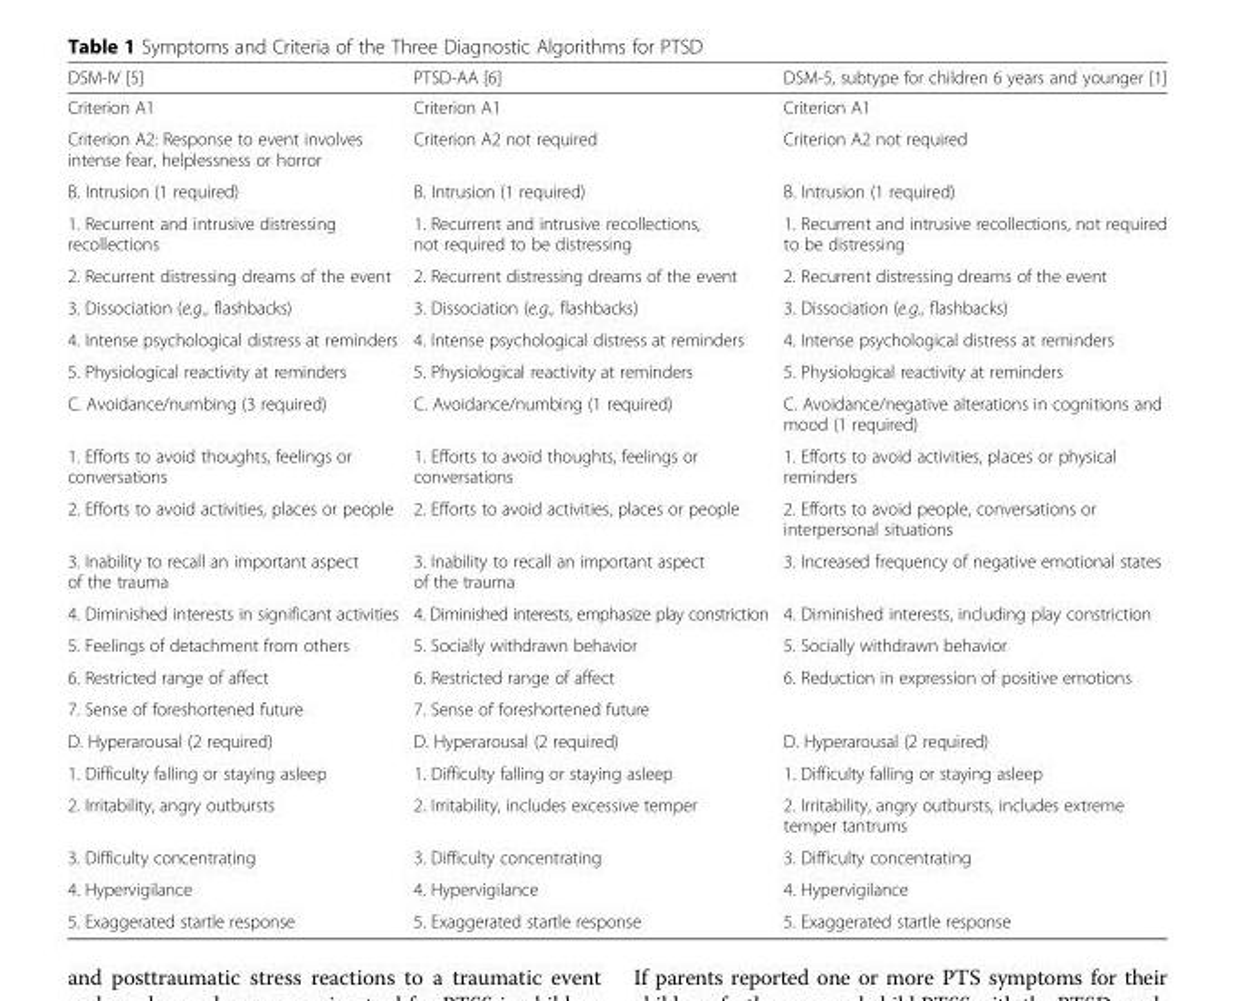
<table><thead><tr><td>DSM-IV [5]</td><td>PTSD-AA [6]</td><td>DSM-5, subtype for children 6 years and younger [1]</td></tr></thead><tbody><tr><td>Criterion A1</td><td>Criterion A1</td><td>Criterion A1</td></tr><tr><td>Criterion A2: Response to event involves intense fear, helplessness or horror</td><td>Criterion A2 not required</td><td>Criterion A2 not required</td></tr><tr><td>B. Intrusion (1 required)</td><td>B. Intrusion (1 required)</td><td>B. Intrusion (1 required)</td></tr><tr><td>1. Recurrent and intrusive distressing recollections</td><td>1. Recurrent and intrusive recollections, not required to be distressing</td><td>1. Recurrent and intrusive recollections, not required to be distressing</td></tr><tr><td>2. Recurrent distressing dreams of the event</td><td>2. Recurrent distressing dreams of the event</td><td>2. Recurrent distressing dreams of the event</td></tr><tr><td>3. Dissociation (e.g., flashbacks)</td><td>3. Dissociation (e.g., flashbacks)</td><td>3. Dissociation (e.g., flashbacks)</td></tr><tr><td>4. Intense psychological distress at reminders</td><td>4. Intense psychological distress at reminders</td><td>4. Intense psychological distress at reminders</td></tr><tr><td>5. Physiological reactivity at reminders</td><td>5. Physiological reactivity at reminders</td><td>5. Physiological reactivity at reminders</td></tr><tr><td>C. Avoidance/numbing (3 required)</td><td>C. Avoidance/numbing (1 required)</td><td>C. Avoidance/negative alterations in cognitions and mood (1 required)</td></tr><tr><td>1. Efforts to avoid thoughts, feelings or conversations</td><td>1. Efforts to avoid thoughts, feelings or conversations</td><td>1. Efforts to avoid activities, places or physical reminders</td></tr><tr><td>2. Efforts to avoid activities, places or people</td><td>2. Efforts to avoid activities, places or people</td><td>2. Efforts to avoid people, conversations or interpersonal situations</td></tr><tr><td>3. Inability to recall an important aspect of the trauma</td><td>3. Inability to recall an important aspect of the trauma</td><td>3. Increased frequency of negative emotional states</td></tr><tr><td>4. Diminished interests in significant activities</td><td>4. Diminished interests, emphasize play constriction</td><td>4. Diminished interests, including play constriction</td></tr><tr><td>5. Feelings of detachment from others</td><td>5. Socially withdrawn behavior</td><td>5. Socially withdrawn behavior</td></tr><tr><td>6. Restricted range of affect</td><td>6. Restricted range of affect</td><td>6. Reduction in expression of positive emotions</td></tr><tr><td>7. Sense of foreshortened future</td><td>7. Sense of foreshortened future</td><td></td></tr><tr><td>D. Hyperarousal (2 required)</td><td>D. Hyperarousal (2 required)</td><td>D. Hyperarousal (2 required)</td></tr><tr><td>1. Difficulty falling or staying asleep</td><td>1. Difficulty falling or staying asleep</td><td>1. Difficulty falling or staying asleep</td></tr><tr><td>2. Irritability, angry outbursts</td><td>2. Irritability, includes excessive temper</td><td>2. Irritability, angry outbursts, includes extreme temper tantrums</td></tr><tr><td>3. Difficulty concentrating</td><td>3. Difficulty concentrating</td><td>3. Difficulty concentrating</td></tr><tr><td>4. Hypervigilance</td><td>4. Hypervigilance</td><td>4. Hypervigilance</td></tr><tr><td>5. Exaggerated startle response</td><td>5. Exaggerated startle response</td><td>5. Exaggerated startle response</td></tr></tbody></table>